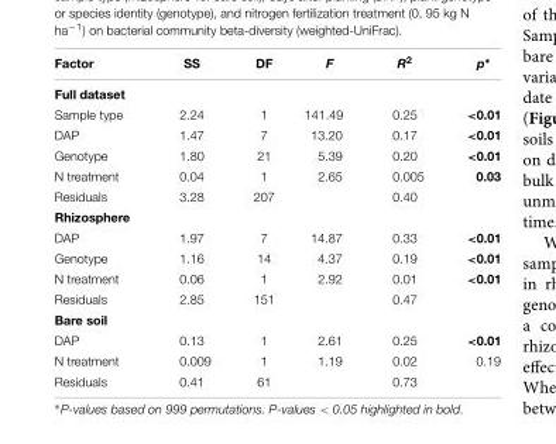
<table><thead><tr><td>Factor</td><td>SS</td><td>DF</td><td>F</td><td>R<sup>2</sup></td><td>p∗</td></tr></thead><tbody><tr><td colspan="6">Full dataset</td></tr><tr><td>Sample type</td><td>2.24</td><td>1</td><td>141.49</td><td>0.25</td><td>&lt;0.01</td></tr><tr><td>DAP</td><td>1.47</td><td>7</td><td>13.20</td><td>0.17</td><td>&lt;0.01</td></tr><tr><td>Genotype</td><td>1.80</td><td>21</td><td>5.39</td><td>0.20</td><td>&lt;0.01</td></tr><tr><td>N treatment</td><td>0.04</td><td>1</td><td>2.65</td><td>0.005</td><td>0.03</td></tr><tr><td>Residuals</td><td>3.28</td><td>207</td><td></td><td>0.40</td><td></td></tr><tr><td colspan="6">Rhizosphere</td></tr><tr><td>DAP</td><td>1.97</td><td>7</td><td>14.87</td><td>0.33</td><td>&lt;0.01</td></tr><tr><td>Genotype</td><td>1.16</td><td>14</td><td>4.37</td><td>0.19</td><td>&lt;0.01</td></tr><tr><td>N treatment</td><td>0.06</td><td>1</td><td>2.92</td><td>0.01</td><td>&lt;0.01</td></tr><tr><td>Residuals</td><td>2.85</td><td>151</td><td></td><td>0.47</td><td></td></tr><tr><td colspan="6">Bare soil</td></tr><tr><td>DAP</td><td>0.13</td><td>1</td><td>2.61</td><td>0.25</td><td>&lt;0.01</td></tr><tr><td>N treatment</td><td>0.009</td><td>1</td><td>1.19</td><td>0.02</td><td>0.19</td></tr><tr><td>Residuals</td><td>0.41</td><td>61</td><td></td><td>0.73</td><td></td></tr></tbody></table>